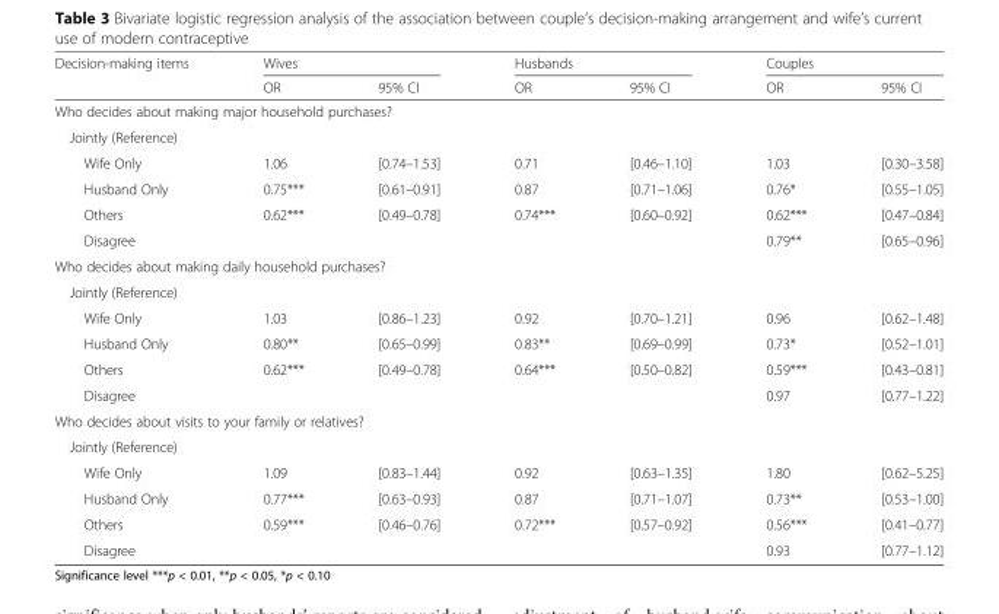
<table><thead><tr><td rowspan="2">Decision-making items</td><td colspan="2">Wives</td><td colspan="2">Husbands</td><td colspan="2">Couples</td></tr><tr><td>OR</td><td>95% CI</td><td>OR</td><td>95% CI</td><td>OR</td><td>95% CI</td></tr></thead><tbody><tr><td colspan="7">Who decides about making major household purchases?</td></tr><tr><td colspan="7">Jointly (Reference)</td></tr><tr><td>Wife Only</td><td>1.06</td><td>[0.74–1.53]</td><td>0.71</td><td>[0.46–1.10]</td><td>1.03</td><td>[0.30–3.58]</td></tr><tr><td>Husband Only</td><td>0.75***</td><td>[0.61–0.91]</td><td>0.87</td><td>[0.71–1.06]</td><td>0.76*</td><td>[0.55–1.05]</td></tr><tr><td>Others</td><td>0.62***</td><td>[0.49–0.78]</td><td>0.74***</td><td>[0.60–0.92]</td><td>0.62***</td><td>[0.47–0.84]</td></tr><tr><td>Disagree</td><td></td><td></td><td></td><td></td><td>0.79**</td><td>[0.65–0.96]</td></tr><tr><td colspan="7">Who decides about making daily household purchases?</td></tr><tr><td colspan="7">Jointly (Reference)</td></tr><tr><td>Wife Only</td><td>1.03</td><td>[0.86–1.23]</td><td>0.92</td><td>[0.70–1.21]</td><td>0.96</td><td>[0.62–1.48]</td></tr><tr><td>Husband Only</td><td>0.80**</td><td>[0.65–0.99]</td><td>0.83**</td><td>[0.69–0.99]</td><td>0.73*</td><td>[0.52–1.01]</td></tr><tr><td>Others</td><td>0.62***</td><td>[0.49–0.78]</td><td>0.64***</td><td>[0.50–0.82]</td><td>0.59***</td><td>[0.43–0.81]</td></tr><tr><td>Disagree</td><td></td><td></td><td></td><td></td><td>0.97</td><td>[0.77–1.22]</td></tr><tr><td colspan="7">Who decides about visits to your family or relatives?</td></tr><tr><td colspan="7">Jointly (Reference)</td></tr><tr><td>Wife Only</td><td>1.09</td><td>[0.83–1.44]</td><td>0.92</td><td>[0.63–1.35]</td><td>1.80</td><td>[0.62–5.25]</td></tr><tr><td>Husband Only</td><td>0.77***</td><td>[0.63–0.93]</td><td>0.87</td><td>[0.71–1.07]</td><td>0.73**</td><td>[0.53–1.00]</td></tr><tr><td>Others</td><td>0.59***</td><td>[0.46–0.76]</td><td>0.72***</td><td>[0.57–0.92]</td><td>0.56***</td><td>[0.41–0.77]</td></tr><tr><td>Disagree</td><td></td><td></td><td></td><td></td><td>0.93</td><td>[0.77–1.12]</td></tr></tbody></table>